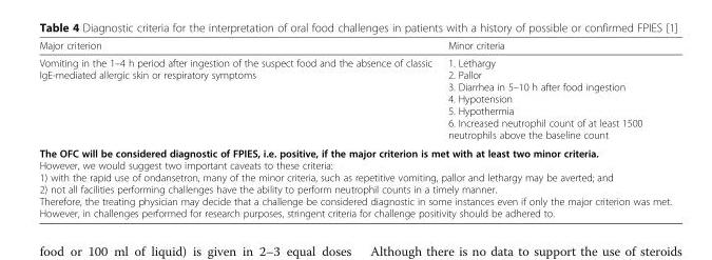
<table><thead><tr><td>Major criterion</td><td>Minor criteria</td></tr></thead><tbody><tr><td>Vomiting in the 1–4 h period after ingestion of the suspect food and the absence of classic IgE-mediated allergic skin or respiratory symptoms</td><td>1. Lethargy 2. Pallor 3. Diarrhea in 5–10 h after food ingestion 4. Hypotension 5. Hypothermia 6. Increased neutrophil count of at least 1500 neutrophils above the baseline count</td></tr><tr><td colspan="2">The OFC will be considered diagnostic of FPIES, i.e. positive, if the major criterion is met with at least two minor criteria. However, we would suggest two important caveats to these criteria: 1) with the rapid use of ondansetron, many of the minor criteria, such as repetitive vomiting, pallor and lethargy may be averted; and 2) not all facilities performing challenges have the ability to perform neutrophil counts in a timely manner. Therefore, the treating physician may decide that a challenge be considered diagnostic in some instances even if only the major criterion was met. However, in challenges performed for research purposes, stringent criteria for challenge positivity should be adhered to.</td></tr></tbody></table>